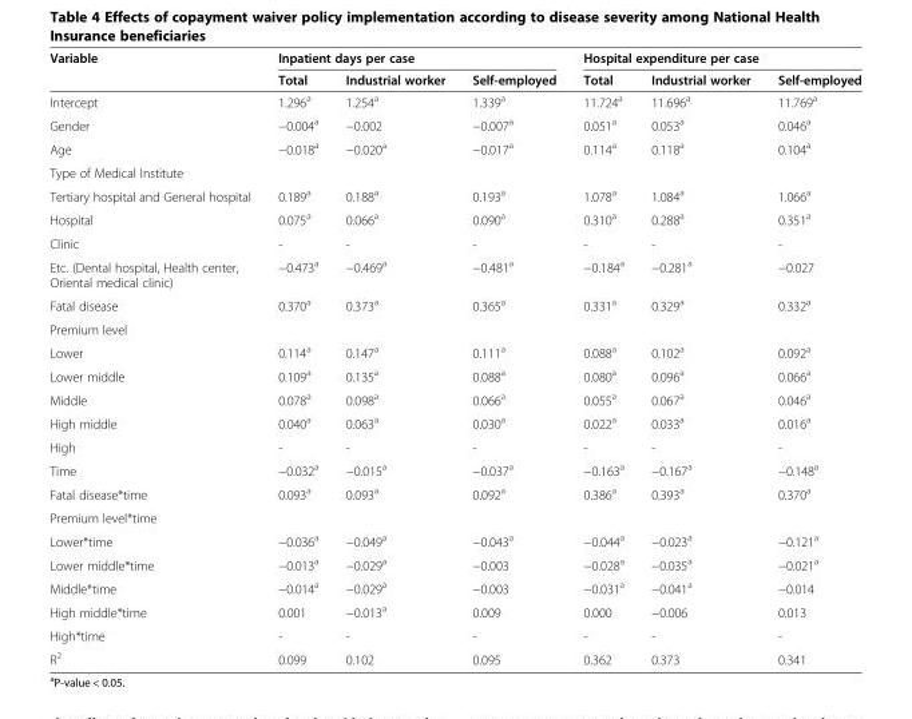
<table><thead><tr><td rowspan="2">Variable</td><td colspan="3">Inpatient days per case</td><td colspan="3">Hospital expenditure per case</td></tr><tr><td>Total</td><td>Industrial worker</td><td>Self-employed</td><td>Total</td><td>Industrial worker</td><td>Self-employed</td></tr></thead><tbody><tr><td>Intercept</td><td>1.296<sup>a</sup></td><td>1.254<sup>a</sup></td><td>1.339<sup>a</sup></td><td>11.724<sup>a</sup></td><td>11.696<sup>a</sup></td><td>11.769<sup>a</sup></td></tr><tr><td>Gender</td><td>−0.004<sup>a</sup></td><td>−0.002</td><td>−0.007<sup>a</sup></td><td>0.051<sup>a</sup></td><td>0.053<sup>a</sup></td><td>0.046<sup>a</sup></td></tr><tr><td>Age</td><td>−0.018<sup>a</sup></td><td>−0.020<sup>a</sup></td><td>−0.017<sup>a</sup></td><td>0.114<sup>a</sup></td><td>0.118<sup>a</sup></td><td>0.104<sup>a</sup></td></tr><tr><td colspan="7">Type of Medical Institute</td></tr><tr><td>Tertiary hospital and General hospital</td><td>0.189<sup>a</sup></td><td>0.188<sup>a</sup></td><td>0.193<sup>a</sup></td><td>1.078<sup>a</sup></td><td>1.084<sup>a</sup></td><td>1.066<sup>a</sup></td></tr><tr><td>Hospital</td><td>0.075<sup>a</sup></td><td>0.066<sup>a</sup></td><td>0.090<sup>a</sup></td><td>0.310<sup>a</sup></td><td>0.288<sup>a</sup></td><td>0.351<sup>a</sup></td></tr><tr><td>Clinic</td><td>-</td><td>-</td><td>-</td><td>-</td><td>-</td><td>-</td></tr><tr><td>Etc. (Dental hospital, Health center, Oriental medical clinic)</td><td>−0.473<sup>a</sup></td><td>−0.469<sup>a</sup></td><td>−0.481<sup>a</sup></td><td>−0.184<sup>a</sup></td><td>−0.281<sup>a</sup></td><td>−0.027</td></tr><tr><td>Fatal disease</td><td>0.370<sup>a</sup></td><td>0.373<sup>a</sup></td><td>0.365<sup>a</sup></td><td>0.331<sup>a</sup></td><td>0.329<sup>a</sup></td><td>0.332<sup>a</sup></td></tr><tr><td colspan="7">Premium level</td></tr><tr><td>Lower</td><td>0.114<sup>a</sup></td><td>0.147<sup>a</sup></td><td>0.111<sup>a</sup></td><td>0.088<sup>a</sup></td><td>0.102<sup>a</sup></td><td>0.092<sup>a</sup></td></tr><tr><td>Lower middle</td><td>0.109<sup>a</sup></td><td>0.135<sup>a</sup></td><td>0.088<sup>a</sup></td><td>0.080<sup>a</sup></td><td>0.096<sup>a</sup></td><td>0.066<sup>a</sup></td></tr><tr><td>Middle</td><td>0.078<sup>a</sup></td><td>0.098<sup>a</sup></td><td>0.066<sup>a</sup></td><td>0.055<sup>a</sup></td><td>0.067<sup>a</sup></td><td>0.046<sup>a</sup></td></tr><tr><td>High middle</td><td>0.040<sup>a</sup></td><td>0.063<sup>a</sup></td><td>0.030<sup>a</sup></td><td>0.022<sup>a</sup></td><td>0.033<sup>a</sup></td><td>0.016<sup>a</sup></td></tr><tr><td>High</td><td>-</td><td>-</td><td>-</td><td>-</td><td>-</td><td>-</td></tr><tr><td>Time</td><td>−0.032<sup>a</sup></td><td>−0.015<sup>a</sup></td><td>−0.037<sup>a</sup></td><td>−0.163<sup>a</sup></td><td>−0.167<sup>a</sup></td><td>−0.148<sup>a</sup></td></tr><tr><td>Fatal disease*time</td><td>0.093<sup>a</sup></td><td>0.093<sup>a</sup></td><td>0.092<sup>a</sup></td><td>0.386<sup>a</sup></td><td>0.393<sup>a</sup></td><td>0.370<sup>a</sup></td></tr><tr><td colspan="7">Premium level*time</td></tr><tr><td>Lower*time</td><td>−0.036<sup>a</sup></td><td>−0.049<sup>a</sup></td><td>−0.043<sup>a</sup></td><td>−0.044<sup>a</sup></td><td>−0.023<sup>a</sup></td><td>−0.121<sup>a</sup></td></tr><tr><td>Lower middle*time</td><td>−0.013<sup>a</sup></td><td>−0.029<sup>a</sup></td><td>−0.003</td><td>−0.028<sup>a</sup></td><td>−0.035<sup>a</sup></td><td>−0.021<sup>a</sup></td></tr><tr><td>Middle*time</td><td>−0.014<sup>a</sup></td><td>−0.029<sup>a</sup></td><td>−0.003</td><td>−0.031<sup>a</sup></td><td>−0.041<sup>a</sup></td><td>−0.014</td></tr><tr><td>High middle*time</td><td>0.001</td><td>−0.013<sup>a</sup></td><td>0.009</td><td>0.000</td><td>−0.006</td><td>0.013</td></tr><tr><td>High*time</td><td>-</td><td>-</td><td>-</td><td>-</td><td>-</td><td>-</td></tr><tr><td>R<sup>2</sup></td><td>0.099</td><td>0.102</td><td>0.095</td><td>0.362</td><td>0.373</td><td>0.341</td></tr></tbody></table>